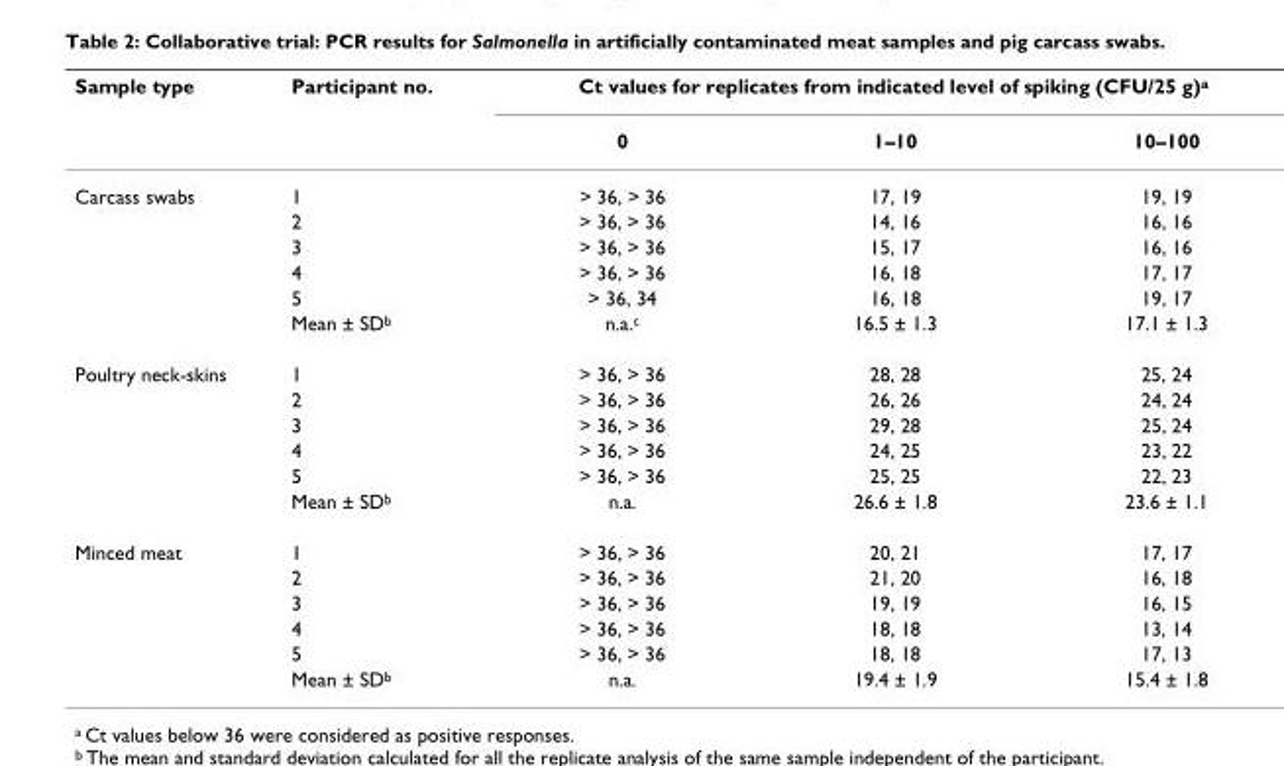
<table><thead><tr><td rowspan="2">Sample type</td><td rowspan="2">Participant no.</td><td colspan="3">Ct values for replicates from indicated level of spiking (CFU/25 g)<sup>a</sup></td></tr><tr><td>0</td><td>1–10</td><td>10–100</td></tr></thead><tbody><tr><td rowspan="6">Carcass swabs</td><td>1</td><td>&gt; 36, &gt; 36</td><td>17, 19</td><td>19, 19</td></tr><tr><td>2</td><td>&gt; 36, &gt; 36</td><td>14, 16</td><td>16, 16</td></tr><tr><td>3</td><td>&gt; 36, &gt; 36</td><td>15, 17</td><td>16, 16</td></tr><tr><td>4</td><td>&gt; 36, &gt; 36</td><td>16, 18</td><td>17, 17</td></tr><tr><td>5</td><td>&gt; 36, 34</td><td>16, 18</td><td>19, 17</td></tr><tr><td>Mean ± SD<sup>b</sup></td><td>n.a.<sup>c</sup></td><td>16.5 ± 1.3</td><td>17.1 ± 1.3</td></tr><tr><td rowspan="6">Poultry neck-skins</td><td>1</td><td>&gt; 36, &gt; 36</td><td>28, 28</td><td>25, 24</td></tr><tr><td>2</td><td>&gt; 36, &gt; 36</td><td>26, 26</td><td>24, 24</td></tr><tr><td>3</td><td>&gt; 36, &gt; 36</td><td>29, 28</td><td>25, 24</td></tr><tr><td>4</td><td>&gt; 36, &gt; 36</td><td>24, 25</td><td>23, 22</td></tr><tr><td>5</td><td>&gt; 36, &gt; 36</td><td>25, 25</td><td>22, 23</td></tr><tr><td>Mean ± SD<sup>b</sup></td><td>n.a.</td><td>26.6 ± 1.8</td><td>23.6 ± 1.1</td></tr><tr><td rowspan="6">Minced meat</td><td>1</td><td>&gt; 36, &gt; 36</td><td>20, 21</td><td>17, 17</td></tr><tr><td>2</td><td>&gt; 36, &gt; 36</td><td>21, 20</td><td>16, 18</td></tr><tr><td>3</td><td>&gt; 36, &gt; 36</td><td>19, 19</td><td>16, 15</td></tr><tr><td>4</td><td>&gt; 36, &gt; 36</td><td>18, 18</td><td>13, 14</td></tr><tr><td>5</td><td>&gt; 36, &gt; 36</td><td>18, 18</td><td>17, 13</td></tr><tr><td>Mean ± SD<sup>b</sup></td><td>n.a.</td><td>19.4 ± 1.9</td><td>15.4 ± 1.8</td></tr></tbody></table>